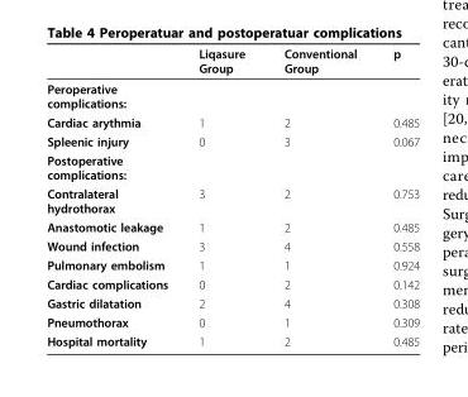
<table><thead><tr><td></td><td>Liqasure Group</td><td>Conventional Group</td><td>p</td></tr></thead><tbody><tr><td colspan="4">Peroperative complications:</td></tr><tr><td>Cardiac arythmia</td><td>1</td><td>2</td><td>0.485</td></tr><tr><td>Spleenic injury</td><td>0</td><td>3</td><td>0.067</td></tr><tr><td colspan="4">Postoperative complications:</td></tr><tr><td>Contralateral hydrothorax</td><td>3</td><td>2</td><td>0.753</td></tr><tr><td>Anastomotic leakage</td><td>1</td><td>2</td><td>0.485</td></tr><tr><td>Wound infection</td><td>3</td><td>4</td><td>0.558</td></tr><tr><td>Pulmonary embolism</td><td>1</td><td>1</td><td>0.924</td></tr><tr><td>Cardiac complications</td><td>0</td><td>2</td><td>0.142</td></tr><tr><td>Gastric dilatation</td><td>2</td><td>4</td><td>0.308</td></tr><tr><td>Pneumothorax</td><td>0</td><td>1</td><td>0.309</td></tr><tr><td>Hospital mortality</td><td>1</td><td>2</td><td>0.485</td></tr></tbody></table>